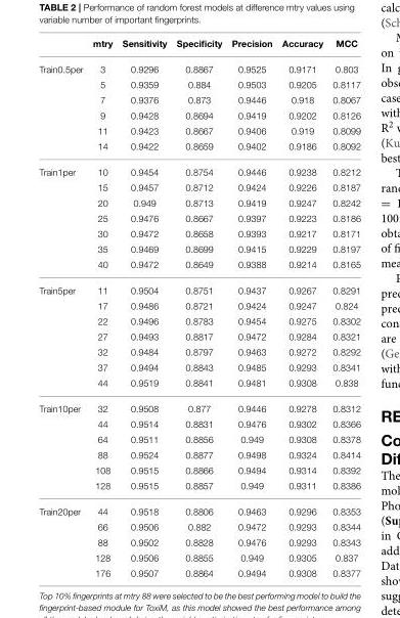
<table><thead><tr><td></td><td>mtry</td><td>Sensitivity</td><td>Specificity</td><td>Precision</td><td>Accuracy</td><td>MCC</td></tr></thead><tbody><tr><td rowspan="6">Train0.5per</td><td>3</td><td>0.9296</td><td>0.8867</td><td>0.9525</td><td>0.9171</td><td>0.803</td></tr><tr><td>5</td><td>0.9359</td><td>0.884</td><td>0.9503</td><td>0.9205</td><td>0.8117</td></tr><tr><td>7</td><td>0.9376</td><td>0.873</td><td>0.9446</td><td>0.918</td><td>0.8067</td></tr><tr><td>9</td><td>0.9428</td><td>0.8694</td><td>0.9419</td><td>0.9202</td><td>0.8126</td></tr><tr><td>11</td><td>0.9423</td><td>0.8667</td><td>0.9406</td><td>0.919</td><td>0.8099</td></tr><tr><td>14</td><td>0.9422</td><td>0.8659</td><td>0.9402</td><td>0.9186</td><td>0.8092</td></tr><tr><td rowspan="7">Train1per</td><td>10</td><td>0.9454</td><td>0.8754</td><td>0.9446</td><td>0.9238</td><td>0.8212</td></tr><tr><td>15</td><td>0.9457</td><td>0.8712</td><td>0.9424</td><td>0.9226</td><td>0.8187</td></tr><tr><td>20</td><td>0.949</td><td>0.8713</td><td>0.9419</td><td>0.9247</td><td>0.8242</td></tr><tr><td>25</td><td>0.9476</td><td>0.8667</td><td>0.9397</td><td>0.9223</td><td>0.8186</td></tr><tr><td>30</td><td>0.9472</td><td>0.8658</td><td>0.9393</td><td>0.9217</td><td>0.8171</td></tr><tr><td>35</td><td>0.9469</td><td>0.8699</td><td>0.9415</td><td>0.9229</td><td>0.8197</td></tr><tr><td>40</td><td>0.9472</td><td>0.8649</td><td>0.9388</td><td>0.9214</td><td>0.8165</td></tr><tr><td rowspan="7">Train5per</td><td>11</td><td>0.9504</td><td>0.8751</td><td>0.9437</td><td>0.9267</td><td>0.8291</td></tr><tr><td>17</td><td>0.9486</td><td>0.8721</td><td>0.9424</td><td>0.9247</td><td>0.824</td></tr><tr><td>22</td><td>0.9496</td><td>0.8783</td><td>0.9454</td><td>0.9275</td><td>0.8302</td></tr><tr><td>27</td><td>0.9493</td><td>0.8817</td><td>0.9472</td><td>0.9284</td><td>0.8321</td></tr><tr><td>32</td><td>0.9484</td><td>0.8797</td><td>0.9463</td><td>0.9272</td><td>0.8292</td></tr><tr><td>37</td><td>0.9494</td><td>0.8843</td><td>0.9485</td><td>0.9293</td><td>0.8341</td></tr><tr><td>44</td><td>0.9519</td><td>0.8841</td><td>0.9481</td><td>0.9308</td><td>0.838</td></tr><tr><td rowspan="6">Train10per</td><td>32</td><td>0.9508</td><td>0.877</td><td>0.9446</td><td>0.9278</td><td>0.8312</td></tr><tr><td>44</td><td>0.9514</td><td>0.8831</td><td>0.9476</td><td>0.9302</td><td>0.8366</td></tr><tr><td>64</td><td>0.9511</td><td>0.8856</td><td>0.949</td><td>0.9308</td><td>0.8378</td></tr><tr><td>88</td><td>0.9524</td><td>0.8877</td><td>0.9498</td><td>0.9324</td><td>0.8414</td></tr><tr><td>108</td><td>0.9515</td><td>0.8866</td><td>0.9494</td><td>0.9314</td><td>0.8392</td></tr><tr><td>128</td><td>0.9515</td><td>0.8857</td><td>0.949</td><td>0.9311</td><td>0.8386</td></tr><tr><td rowspan="5">Train20per</td><td>44</td><td>0.9518</td><td>0.8806</td><td>0.9463</td><td>0.9296</td><td>0.8353</td></tr><tr><td>66</td><td>0.9506</td><td>0.882</td><td>0.9472</td><td>0.9293</td><td>0.8344</td></tr><tr><td>88</td><td>0.9502</td><td>0.8828</td><td>0.9476</td><td>0.9293</td><td>0.8343</td></tr><tr><td>128</td><td>0.9506</td><td>0.8855</td><td>0.949</td><td>0.9305</td><td>0.837</td></tr><tr><td>176</td><td>0.9507</td><td>0.8864</td><td>0.9494</td><td>0.9308</td><td>0.8377</td></tr></tbody></table>